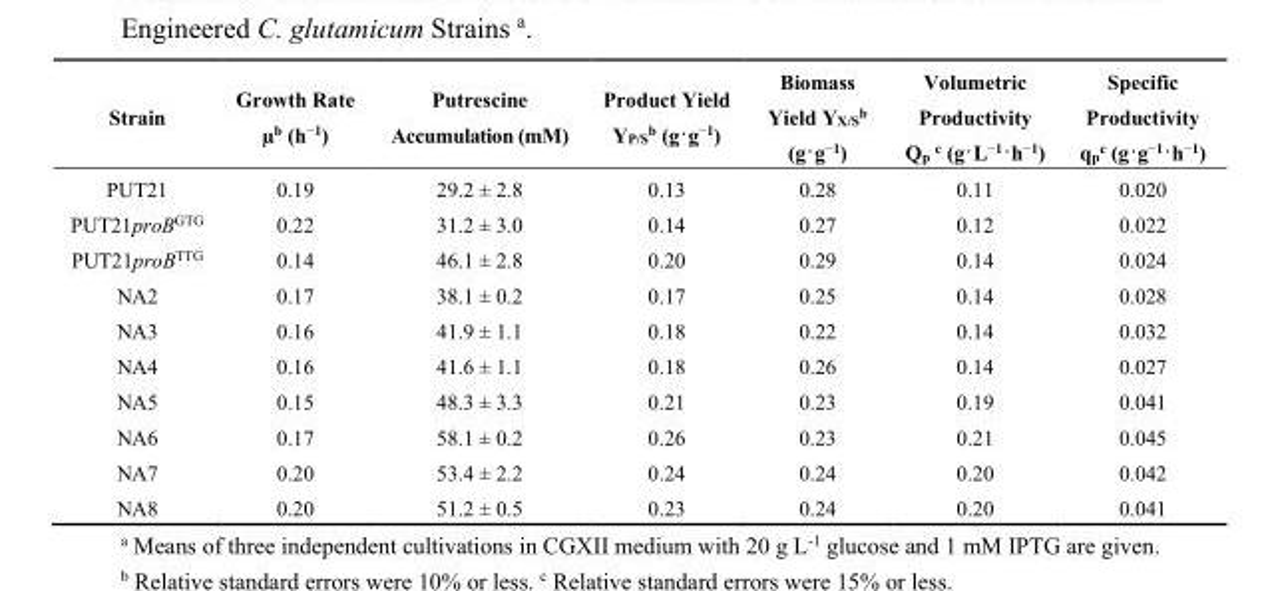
<table><thead><tr><td>Strain</td><td>Growth Rate µ<sup>b</sup> (h<sup>−1</sup>)</td><td>Putrescine Accumulation (mM)</td><td>Product Yield Y<sub>P/S</sub><sup>b</sup> (g·g<sup>−1</sup>)</td><td>Biomass Yield Y<sub>X/S</sub><sup>b</sup> (g·g<sup>−1</sup>)</td><td>Volumetric Productivity Q<sub>p</sub> <sup>c</sup> (g·L<sup>−1</sup>·h<sup>−1</sup>)</td><td>Specific Productivity q<sub>p</sub><sup>c</sup> (g·g<sup>−1</sup>·h<sup>−1</sup>)</td></tr></thead><tbody><tr><td>PUT21</td><td>0.19</td><td>29.2 ± 2.8</td><td>0.13</td><td>0.28</td><td>0.11</td><td>0.020</td></tr><tr><td>PUT21proB<sup>GTG</sup></td><td>0.22</td><td>31.2 ± 3.0</td><td>0.14</td><td>0.27</td><td>0.12</td><td>0.022</td></tr><tr><td>PUT21proB<sup>TTG</sup></td><td>0.14</td><td>46.1 ± 2.8</td><td>0.20</td><td>0.29</td><td>0.14</td><td>0.024</td></tr><tr><td>NA2</td><td>0.17</td><td>38.1 ± 0.2</td><td>0.17</td><td>0.25</td><td>0.14</td><td>0.028</td></tr><tr><td>NA3</td><td>0.16</td><td>41.9 ± 1.1</td><td>0.18</td><td>0.22</td><td>0.14</td><td>0.032</td></tr><tr><td>NA4</td><td>0.16</td><td>41.6 ± 1.1</td><td>0.18</td><td>0.26</td><td>0.14</td><td>0.027</td></tr><tr><td>NA5</td><td>0.15</td><td>48.3 ± 3.3</td><td>0.21</td><td>0.23</td><td>0.19</td><td>0.041</td></tr><tr><td>NA6</td><td>0.17</td><td>58.1 ± 0.2</td><td>0.26</td><td>0.23</td><td>0.21</td><td>0.045</td></tr><tr><td>NA7</td><td>0.20</td><td>53.4 ± 2.2</td><td>0.24</td><td>0.24</td><td>0.20</td><td>0.042</td></tr><tr><td>NA8</td><td>0.20</td><td>51.2 ± 0.5</td><td>0.23</td><td>0.24</td><td>0.20</td><td>0.041</td></tr></tbody></table>